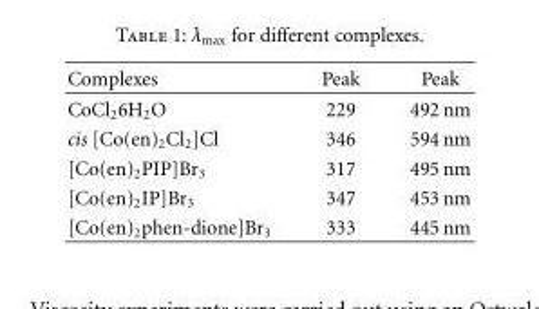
<table><tbody><tr><td>Complexes</td><td>Peak</td><td>Peak</td></tr><tr><td>CoCl26H2O</td><td>229</td><td>492 nm</td></tr><tr><td>cis [Co(en)2Cl2]Cl</td><td>346</td><td>594 nm</td></tr><tr><td>[Co(en)2PIP]Br3</td><td>317</td><td>495 nm</td></tr><tr><td>[Co(en)2IP]Br3</td><td>347</td><td>453 nm</td></tr><tr><td>[Co(en)2phen-dione]Br3</td><td>333</td><td>445 nm</td></tr></tbody></table>